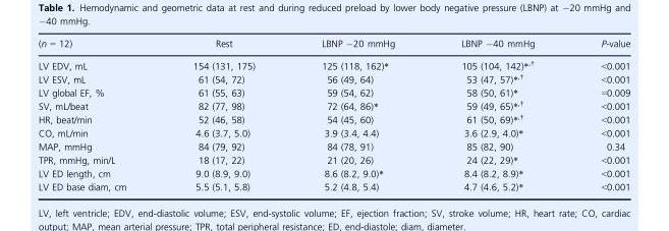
<table><thead><tr><td>(n = 12)</td><td>Rest</td><td>LBNP −20 mmHg</td><td>LBNP −40 mmHg</td><td>P-value</td></tr></thead><tbody><tr><td>LV EDV, mL</td><td>154 (131, 175)</td><td>125 (118, 162)*</td><td>105 (104, 142)*<sup>,</sup>†</td><td>&lt;0.001</td></tr><tr><td>LV ESV, mL</td><td>61 (54, 72)</td><td>56 (49, 64)</td><td>53 (47, 57)*<sup>,</sup>†</td><td>&lt;0.001</td></tr><tr><td>LV global EF, %</td><td>61 (55, 63)</td><td>59 (54, 62)</td><td>58 (50, 61)*</td><td>=0.009</td></tr><tr><td>SV, mL/beat</td><td>82 (77, 98)</td><td>72 (64, 86)*</td><td>59 (49, 65)*<sup>,</sup>†</td><td>&lt;0.001</td></tr><tr><td>HR, beat/min</td><td>52 (46, 58)</td><td>54 (45, 60)</td><td>61 (50, 69)*<sup>,</sup>†</td><td>&lt;0.001</td></tr><tr><td>CO, mL/min</td><td>4.6 (3.7, 5.0)</td><td>3.9 (3.4, 4.4)</td><td>3.6 (2.9, 4.0)*</td><td>&lt;0.001</td></tr><tr><td>MAP, mmHg</td><td>84 (79, 92)</td><td>84 (78, 91)</td><td>85 (82, 90)</td><td>0.34</td></tr><tr><td>TPR, mmHg, min/L</td><td>18 (17, 22)</td><td>21 (20, 26)</td><td>24 (22, 29)*</td><td>&lt;0.001</td></tr><tr><td>LV ED length, cm</td><td>9.0 (8.9, 9.0)</td><td>8.6 (8.2, 9.0)*</td><td>8.4 (8.2, 8.9)*</td><td>&lt;0.001</td></tr><tr><td>LV ED base diam, cm</td><td>5.5 (5.1, 5.8)</td><td>5.2 (4.8, 5.4)</td><td>4.7 (4.6, 5.2)*</td><td>&lt;0.001</td></tr></tbody></table>